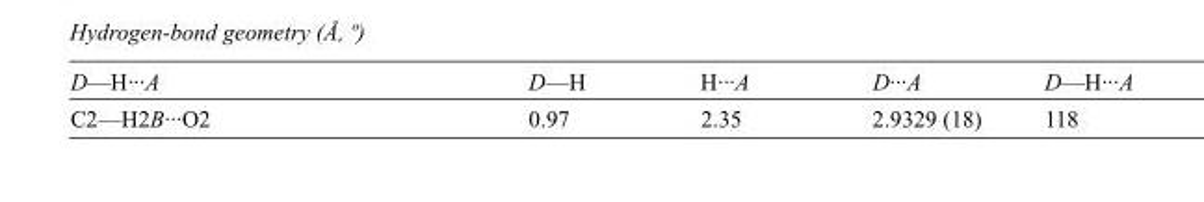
<table><tbody><tr><td>D—H···A</td><td>D—H</td><td>H···A</td><td>D···A</td><td>D—H···A</td></tr><tr><td>C2—H2B···O2</td><td>0.97</td><td>2.35</td><td>2.9329 (18)</td><td>118</td></tr></tbody></table>